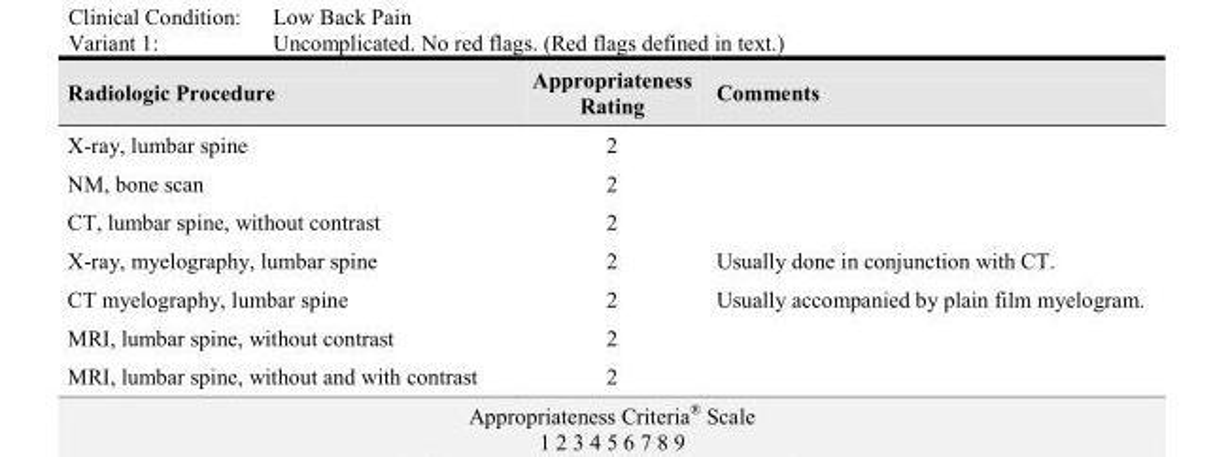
<table><thead><tr><td>Radiologic Procedure</td><td>Appropriateness Rating</td><td>Comments</td></tr></thead><tbody><tr><td>X-ray, lumbar spine</td><td>2</td><td></td></tr><tr><td>NM, bone scan</td><td>2</td><td></td></tr><tr><td>CT, lumbar spine, without contrast</td><td>2</td><td></td></tr><tr><td>X-ray, myelography, lumbar spine</td><td>2</td><td>Usually done in conjunction with CT.</td></tr><tr><td>CT myelography, lumbar spine</td><td>2</td><td>Usually accompanied by plain film myelogram.</td></tr><tr><td>MRI, lumbar spine, without contrast</td><td>2</td><td></td></tr><tr><td>MRI, lumbar spine, without and with contrast</td><td>2</td><td></td></tr></tbody></table>